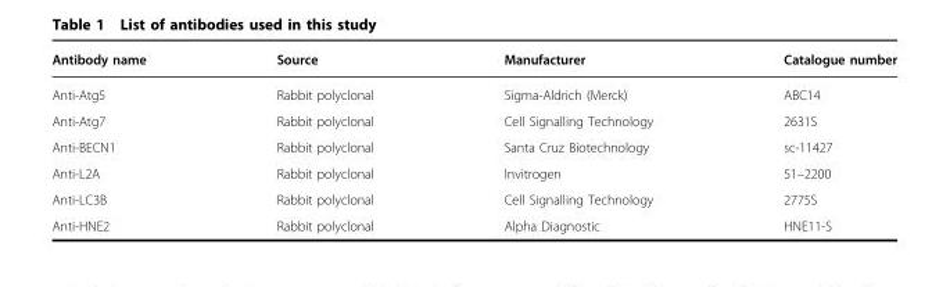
<table><thead><tr><td>Antibody name</td><td>Source</td><td>Manufacturer</td><td>Catalogue number</td></tr></thead><tbody><tr><td>Anti-Atg5</td><td>Rabbit polyclonal</td><td>Sigma-Aldrich (Merck)</td><td>ABC14</td></tr><tr><td>Anti-Atg7</td><td>Rabbit polyclonal</td><td>Cell Signalling Technology</td><td>2631S</td></tr><tr><td>Anti-BECN1</td><td>Rabbit polyclonal</td><td>Santa Cruz Biotechnology</td><td>sc-11427</td></tr><tr><td>Anti-L2A</td><td>Rabbit polyclonal</td><td>Invitrogen</td><td>51–2200</td></tr><tr><td>Anti-LC3B</td><td>Rabbit polyclonal</td><td>Cell Signalling Technology</td><td>2775S</td></tr><tr><td>Anti-HNE2</td><td>Rabbit polyclonal</td><td>Alpha Diagnostic</td><td>HNE11-S</td></tr></tbody></table>